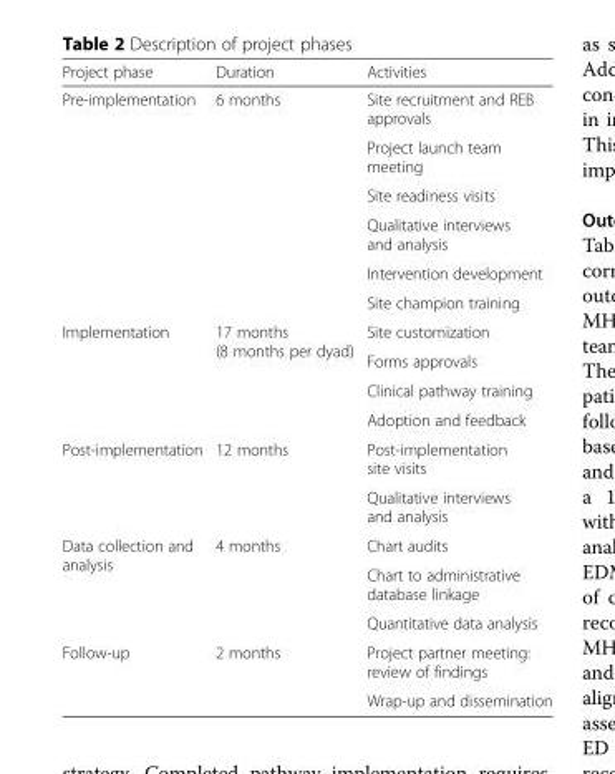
<table><thead><tr><td>Project phase</td><td>Duration</td><td>Activities</td></tr></thead><tbody><tr><td rowspan="6">Pre-implementation</td><td rowspan="6">6 months</td><td>Site recruitment and REB approvals</td></tr><tr><td>Project launch team meeting</td></tr><tr><td>Site readiness visits</td></tr><tr><td>Qualitative interviews and analysis</td></tr><tr><td>Intervention development</td></tr><tr><td>Site champion training</td></tr><tr><td rowspan="4">Implementation</td><td rowspan="4">17 months (8 months per dyad)</td><td>Site customization</td></tr><tr><td>Forms approvals</td></tr><tr><td>Clinical pathway training</td></tr><tr><td>Adoption and feedback</td></tr><tr><td rowspan="2">Post-implementation</td><td rowspan="2">12 months</td><td>Post-implementation site visits</td></tr><tr><td>Qualitative interviews and analysis</td></tr><tr><td rowspan="3">Data collection and analysis</td><td rowspan="3">4 months</td><td>Chart audits</td></tr><tr><td>Chart to administrative database linkage</td></tr><tr><td>Quantitative data analysis</td></tr><tr><td rowspan="2">Follow-up</td><td rowspan="2">2 months</td><td>Project partner meeting: review of findings</td></tr><tr><td>Wrap-up and dissemination</td></tr></tbody></table>